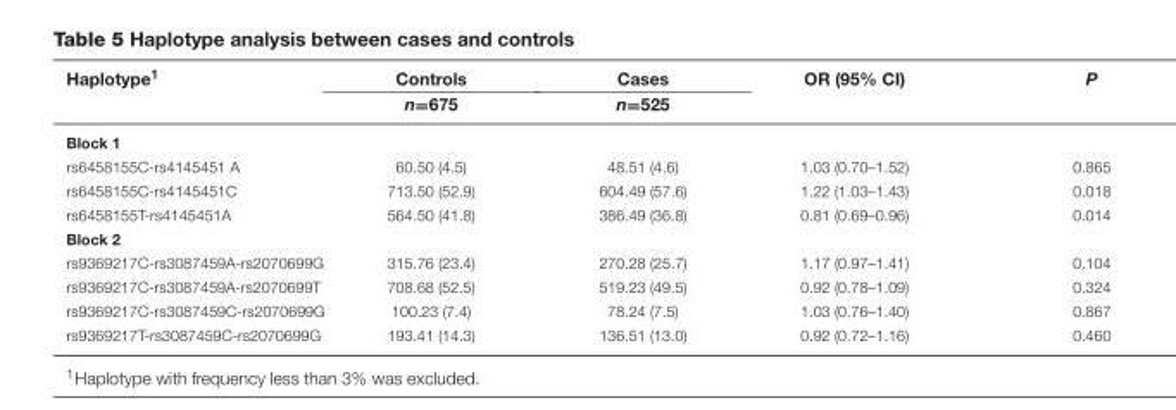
<table><thead><tr><td rowspan="2">Haplotype<sup>1</sup></td><td rowspan="2">Controls n=675</td><td rowspan="2">Cases n=525</td><td rowspan="2">OR (95% CI)</td><td rowspan="2">P</td></tr><tr></tr></thead><tbody><tr><td colspan="5">Block 1</td></tr><tr><td>rs6458155C-rs4145451 A</td><td>60.50 (4.5)</td><td>48.51 (4.6)</td><td>1.03 (0.70–1.52)</td><td>0.865</td></tr><tr><td>rs6458155C-rs4145451C</td><td>713.50 (52.9)</td><td>604.49 (57.6)</td><td>1.22 (1.03–1.43)</td><td>0.018</td></tr><tr><td>rs6458155T-rs4145451A</td><td>564.50 (41.8)</td><td>386.49 (36.8)</td><td>0.81 (0.69–0.96)</td><td>0.014</td></tr><tr><td colspan="5">Block 2</td></tr><tr><td>rs9369217C-rs3087459A-rs2070699G</td><td>315.76 (23.4)</td><td>270.28 (25.7)</td><td>1.17 (0.97–1.41)</td><td>0.104</td></tr><tr><td>rs9369217C-rs3087459A-rs2070699T</td><td>708.68 (52.5)</td><td>519.23 (49.5)</td><td>0.92 (0.78–1.09)</td><td>0.324</td></tr><tr><td>rs9369217C-rs3087459C-rs2070699G</td><td>100.23 (7.4)</td><td>78.24 (7.5)</td><td>1.03 (0.76–1.40)</td><td>0.867</td></tr><tr><td>rs9369217T-rs3087459C-rs2070699G</td><td>193.41 (14.3)</td><td>136.51 (13.0)</td><td>0.92 (0.72–1.16)</td><td>0.460</td></tr></tbody></table>